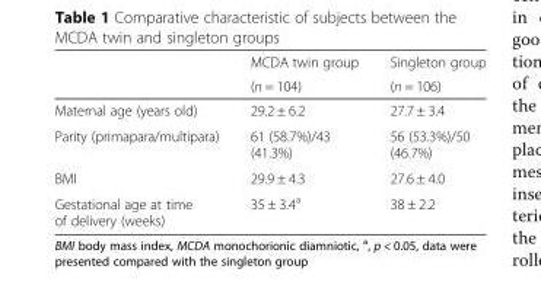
<table><thead><tr><td rowspan="2"></td><td rowspan="2">MCDA twin group (n = 104)</td><td rowspan="2">Singleton group (n = 106)</td></tr><tr></tr></thead><tbody><tr><td>Maternal age (years old)</td><td>29.2 ± 6.2</td><td>27.7 ± 3.4</td></tr><tr><td>Parity (primapara/multipara)</td><td>61 (58.7%)/43 (41.3%)</td><td>56 (53.3%)/50 (46.7%)</td></tr><tr><td>BMI</td><td>29.9 ± 4.3</td><td>27.6 ± 4.0</td></tr><tr><td>Gestational age at time of delivery (weeks)</td><td>35 ± 3.4<sup>a</sup></td><td>38 ± 2.2</td></tr></tbody></table>